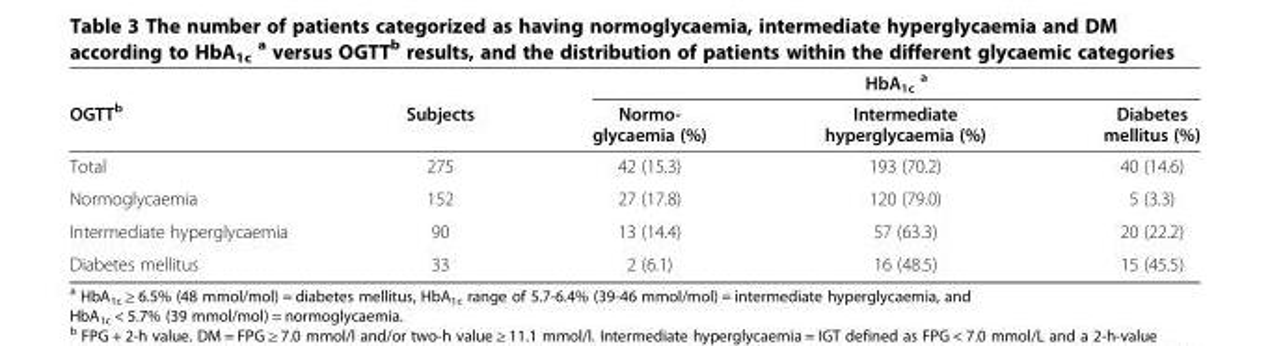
<table><thead><tr><td rowspan="2">OGTT<sup>b</sup></td><td rowspan="2">Subjects</td><td colspan="3">HbA<sub>1c</sub> <sup>a</sup></td></tr><tr><td>Normo- glycaemia (%)</td><td>Intermediate hyperglycaemia (%)</td><td>Diabetes mellitus (%)</td></tr></thead><tbody><tr><td>Total</td><td>275</td><td>42 (15.3)</td><td>193 (70.2)</td><td>40 (14.6)</td></tr><tr><td>Normoglycaemia</td><td>152</td><td>27 (17.8)</td><td>120 (79.0)</td><td>5 (3.3)</td></tr><tr><td>Intermediate hyperglycaemia</td><td>90</td><td>13 (14.4)</td><td>57 (63.3)</td><td>20 (22.2)</td></tr><tr><td>Diabetes mellitus</td><td>33</td><td>2 (6.1)</td><td>16 (48.5)</td><td>15 (45.5)</td></tr></tbody></table>